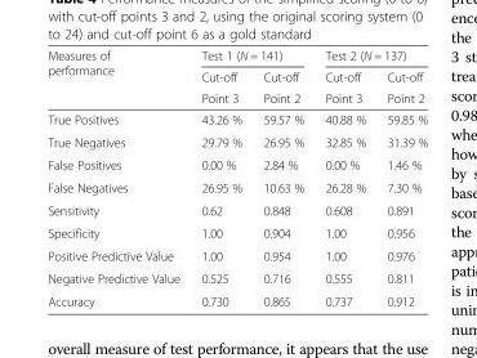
<table><thead><tr><td rowspan="3">Measures of performance</td><td colspan="2">Test 1 (N = 141)</td><td colspan="2">Test 2 (N = 137)</td></tr><tr><td rowspan="2">Cut-off Point 3</td><td rowspan="2">Cut-off Point 2</td><td rowspan="2">Cut-off Point 3</td><td rowspan="2">Cut-off Point 2</td></tr><tr></tr></thead><tbody><tr><td>True Positives</td><td>43.26 %</td><td>59.57 %</td><td>40.88 %</td><td>59.85 %</td></tr><tr><td>True Negatives</td><td>29.79 %</td><td>26.95 %</td><td>32.85 %</td><td>31.39 %</td></tr><tr><td>False Positives</td><td>0.00 %</td><td>2.84 %</td><td>0.00 %</td><td>1.46 %</td></tr><tr><td>False Negatives</td><td>26.95 %</td><td>10.63 %</td><td>26.28 %</td><td>7.30 %</td></tr><tr><td>Sensitivity</td><td>0.62</td><td>0.848</td><td>0.608</td><td>0.891</td></tr><tr><td>Specificity</td><td>1.00</td><td>0.904</td><td>1.00</td><td>0.956</td></tr><tr><td>Positive Predictive Value</td><td>1.00</td><td>0.954</td><td>1.00</td><td>0.976</td></tr><tr><td>Negative Predictive Value</td><td>0.525</td><td>0.716</td><td>0.555</td><td>0.811</td></tr><tr><td>Accuracy</td><td>0.730</td><td>0.865</td><td>0.737</td><td>0.912</td></tr></tbody></table>